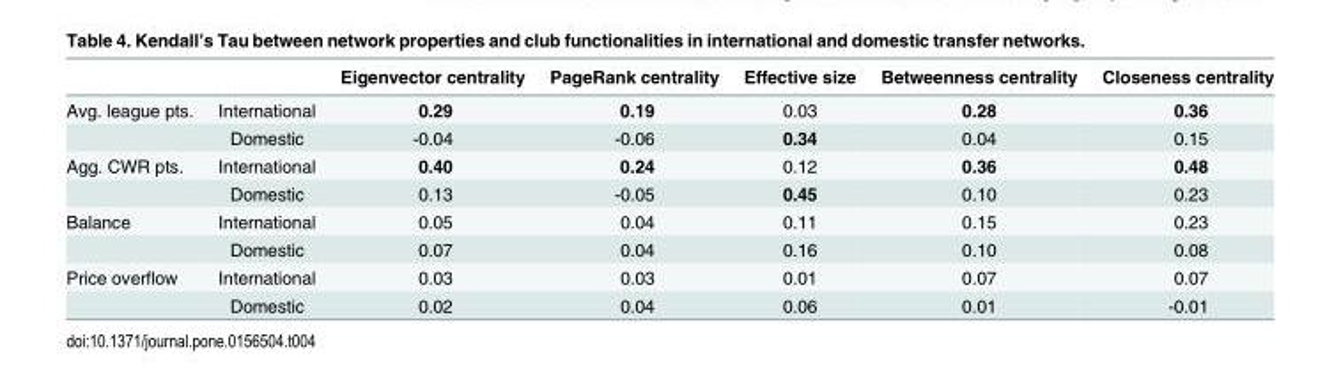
<table><thead><tr><td></td><td></td><td>Eigenvector centrality</td><td>PageRank centrality</td><td>Effective size</td><td>Betweenness centrality</td><td>Closeness centrality</td></tr></thead><tbody><tr><td rowspan="2">Avg. league pts.</td><td>International</td><td>0.29</td><td>0.19</td><td>0.03</td><td>0.28</td><td>0.36</td></tr><tr><td>Domestic</td><td>-0.04</td><td>-0.06</td><td>0.34</td><td>0.04</td><td>0.15</td></tr><tr><td rowspan="2">Agg. CWR pts.</td><td>International</td><td>0.40</td><td>0.24</td><td>0.12</td><td>0.36</td><td>0.48</td></tr><tr><td>Domestic</td><td>0.13</td><td>-0.05</td><td>0.45</td><td>0.10</td><td>0.23</td></tr><tr><td rowspan="2">Balance</td><td>International</td><td>0.05</td><td>0.04</td><td>0.11</td><td>0.15</td><td>0.23</td></tr><tr><td>Domestic</td><td>0.07</td><td>0.04</td><td>0.16</td><td>0.10</td><td>0.08</td></tr><tr><td rowspan="2">Price overflow</td><td>International</td><td>0.03</td><td>0.03</td><td>0.01</td><td>0.07</td><td>0.07</td></tr><tr><td>Domestic</td><td>0.02</td><td>0.04</td><td>0.06</td><td>0.01</td><td>-0.01</td></tr></tbody></table>